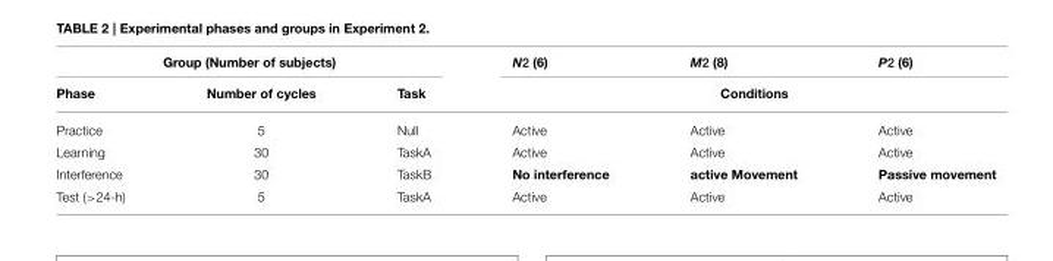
<table><thead><tr><td colspan="3">Group (Number of subjects)</td><td>N2 (6)</td><td>M2 (8)</td><td>P2 (6)</td></tr><tr><td>Phase</td><td>Number of cycles</td><td>Task</td><td colspan="3">Conditions</td></tr></thead><tbody><tr><td>Practice</td><td>5</td><td>Null</td><td>Active</td><td>Active</td><td>Active</td></tr><tr><td>Learning</td><td>30</td><td>TaskA</td><td>Active</td><td>Active</td><td>Active</td></tr><tr><td>Interference</td><td>30</td><td>TaskB</td><td>No interference</td><td>active Movement</td><td>Passive movement</td></tr><tr><td>Test (&gt;24-h)</td><td>5</td><td>TaskA</td><td>Active</td><td>Active</td><td>Active</td></tr></tbody></table>